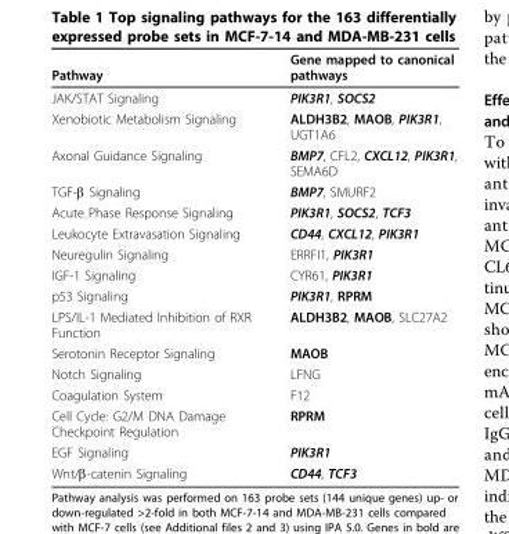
<table><thead><tr><td>Pathway</td><td>Gene mapped to canonical pathways</td></tr></thead><tbody><tr><td>JAK/STAT Signaling</td><td>PIK3R1, SOCS2</td></tr><tr><td>Xenobiotic Metabolism Signaling</td><td>ALDH3B2, MAOB, PIK3R1, UGT1A6</td></tr><tr><td>Axonal Guidance Signaling</td><td>BMP7, CFL2, CXCL12, PIK3R1, SEMA6D</td></tr><tr><td>TGF-β Signaling</td><td>BMP7, SMURF2</td></tr><tr><td>Acute Phase Response Signaling</td><td>PIK3R1, SOCS2, TCF3</td></tr><tr><td>Leukocyte Extravasation Signaling</td><td>CD44, CXCL12, PIK3R1</td></tr><tr><td>Neuregulin Signaling</td><td>ERRFI1, PIK3R1</td></tr><tr><td>IGF-1 Signaling</td><td>CYR61, PIK3R1</td></tr><tr><td>p53 Signaling</td><td>PIK3R1, RPRM</td></tr><tr><td>LPS/IL-1 Mediated Inhibition of RXR Function</td><td>ALDH3B2, MAOB, SLC27A2</td></tr><tr><td>Serotonin Receptor Signaling</td><td>MAOB</td></tr><tr><td>Notch Signaling</td><td>LFNG</td></tr><tr><td>Coagulation System</td><td>F12</td></tr><tr><td>Cell Cycle: G2/M DNA Damage Checkpoint Regulation</td><td>RPRM</td></tr><tr><td>EGF Signaling</td><td>PIK3R1</td></tr><tr><td>Wnt/β-catenin Signaling</td><td>CD44, TCF3</td></tr></tbody></table>